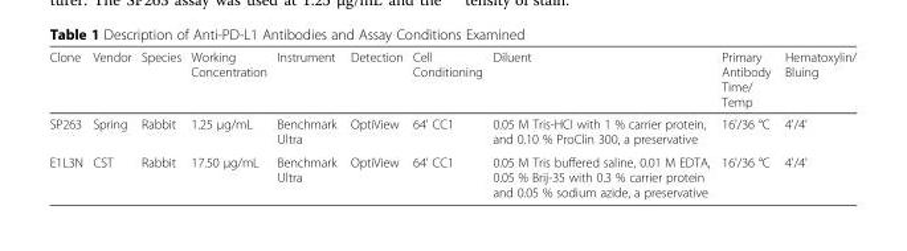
<table><thead><tr><td>Clone</td><td>Vendor</td><td>Species</td><td>Working Concentration</td><td>Instrument</td><td>Detection</td><td>Cell Conditioning</td><td>Diluent</td><td>Primary Antibody Time/ Temp</td><td>Hematoxylin/ Bluing</td></tr></thead><tbody><tr><td>SP263</td><td>Spring</td><td>Rabbit</td><td>1.25 μg/mL</td><td>Benchmark Ultra</td><td>OptiView</td><td>64&#x27; CC1</td><td>0.05 M Tris-HCI with 1 % carrier protein, and 0.10 % ProClin 300, a preservative</td><td>16&#x27;/36 °C</td><td>4&#x27;/4&#x27;</td></tr><tr><td>E1L3N</td><td>CST</td><td>Rabbit</td><td>17.50 μg/mL</td><td>Benchmark Ultra</td><td>OptiView</td><td>64&#x27; CC1</td><td>0.05 M Tris buffered saline, 0.01 M EDTA, 0.05 % Brij-35 with 0.3 % carrier protein and 0.05 % sodium azide, a preservative</td><td>16&#x27;/36 °C</td><td>4&#x27;/4&#x27;</td></tr></tbody></table>